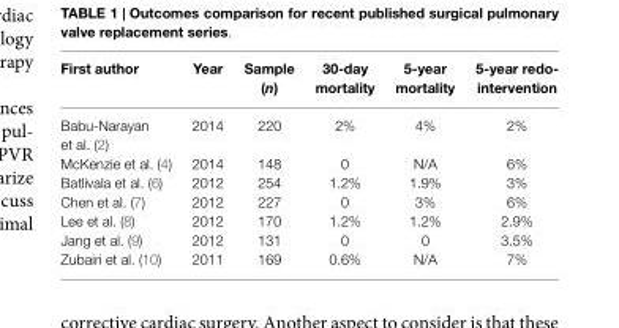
<table><thead><tr><td>First author</td><td>Year</td><td>Sample (n)</td><td>30-day mortality</td><td>5-year mortality</td><td>5-year redo- intervention</td></tr></thead><tbody><tr><td>Babu-Narayan et al. (2)</td><td>2014</td><td>220</td><td>2%</td><td>4%</td><td>2%</td></tr><tr><td>McKenzie et al. (4)</td><td>2014</td><td>148</td><td>0</td><td>N/A</td><td>6%</td></tr><tr><td>Batlivala et al. (6)</td><td>2012</td><td>254</td><td>1.2%</td><td>1.9%</td><td>3%</td></tr><tr><td>Chen et al. (7)</td><td>2012</td><td>227</td><td>0</td><td>3%</td><td>6%</td></tr><tr><td>Lee et al. (8)</td><td>2012</td><td>170</td><td>1.2%</td><td>1.2%</td><td>2.9%</td></tr><tr><td>Jang et al. (9)</td><td>2012</td><td>131</td><td>0</td><td>0</td><td>3.5%</td></tr><tr><td>Zubairi et al. (10)</td><td>2011</td><td>169</td><td>0.6%</td><td>N/A</td><td>7%</td></tr></tbody></table>